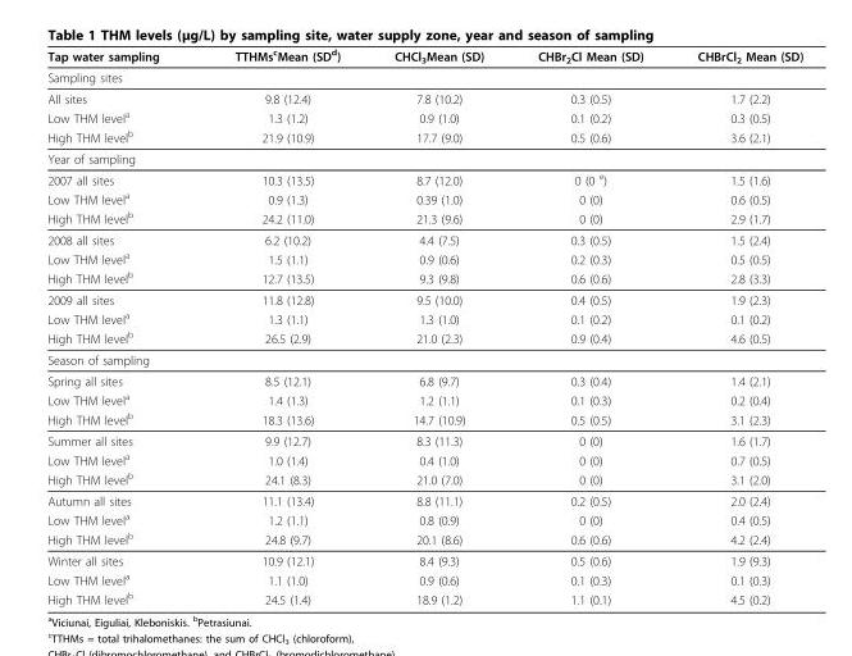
<table><thead><tr><td>Tap water sampling</td><td>TTHMs<sup>c</sup>Mean (SD<sup>d</sup>)</td><td>CHCl<sub>3</sub>Mean (SD)</td><td>CHBr<sub>2</sub>Cl Mean (SD)</td><td>CHBrCl<sub>2</sub> Mean (SD)</td></tr></thead><tbody><tr><td colspan="5">Sampling sites</td></tr><tr><td>All sites</td><td>9.8 (12.4)</td><td>7.8 (10.2)</td><td>0.3 (0.5)</td><td>1.7 (2.2)</td></tr><tr><td>Low THM level<sup>a</sup></td><td>1.3 (1.2)</td><td>0.9 (1.0)</td><td>0.1 (0.2)</td><td>0.3 (0.5)</td></tr><tr><td>High THM level<sup>b</sup></td><td>21.9 (10.9)</td><td>17.7 (9.0)</td><td>0.5 (0.6)</td><td>3.6 (2.1)</td></tr><tr><td colspan="5">Year of sampling</td></tr><tr><td>2007 all sites</td><td>10.3 (13.5)</td><td>8.7 (12.0)</td><td>0 (0 <sup>e</sup>)</td><td>1.5 (1.6)</td></tr><tr><td>Low THM level<sup>a</sup></td><td>0.9 (1.3)</td><td>0.39 (1.0)</td><td>0 (0)</td><td>0.6 (0.5)</td></tr><tr><td>High THM level<sup>b</sup></td><td>24.2 (11.0)</td><td>21.3 (9.6)</td><td>0 (0)</td><td>2.9 (1.7)</td></tr><tr><td>2008 all sites</td><td>6.2 (10.2)</td><td>4.4 (7.5)</td><td>0.3 (0.5)</td><td>1.5 (2.4)</td></tr><tr><td>Low THM level<sup>a</sup></td><td>1.5 (1.1)</td><td>0.9 (0.6)</td><td>0.2 (0.3)</td><td>0.5 (0.5)</td></tr><tr><td>High THM level<sup>b</sup></td><td>12.7 (13.5)</td><td>9.3 (9.8)</td><td>0.6 (0.6)</td><td>2.8 (3.3)</td></tr><tr><td>2009 all sites</td><td>11.8 (12.8)</td><td>9.5 (10.0)</td><td>0.4 (0.5)</td><td>1.9 (2.3)</td></tr><tr><td>Low THM level<sup>a</sup></td><td>1.3 (1.1)</td><td>1.3 (1.0)</td><td>0.1 (0.2)</td><td>0.1 (0.2)</td></tr><tr><td>High THM level<sup>b</sup></td><td>26.5 (2.9)</td><td>21.0 (2.3)</td><td>0.9 (0.4)</td><td>4.6 (0.5)</td></tr><tr><td colspan="5">Season of sampling</td></tr><tr><td>Spring all sites</td><td>8.5 (12.1)</td><td>6.8 (9.7)</td><td>0.3 (0.4)</td><td>1.4 (2.1)</td></tr><tr><td>Low THM level<sup>a</sup></td><td>1.4 (1.3)</td><td>1.2 (1.1)</td><td>0.1 (0.3)</td><td>0.2 (0.4)</td></tr><tr><td>High THM level<sup>b</sup></td><td>18.3 (13.6)</td><td>14.7 (10.9)</td><td>0.5 (0.5)</td><td>3.1 (2.3)</td></tr><tr><td>Summer all sites</td><td>9.9 (12.7)</td><td>8.3 (11.3)</td><td>0 (0)</td><td>1.6 (1.7)</td></tr><tr><td>Low THM level<sup>a</sup></td><td>1.0 (1.4)</td><td>0.4 (1.0)</td><td>0 (0)</td><td>0.7 (0.5)</td></tr><tr><td>High THM level<sup>b</sup></td><td>24.1 (8.3)</td><td>21.0 (7.0)</td><td>0 (0)</td><td>3.1 (2.0)</td></tr><tr><td>Autumn all sites</td><td>11.1 (13.4)</td><td>8.8 (11.1)</td><td>0.2 (0.5)</td><td>2.0 (2.4)</td></tr><tr><td>Low THM level<sup>a</sup></td><td>1.2 (1.1)</td><td>0.8 (0.9)</td><td>0 (0)</td><td>0.4 (0.5)</td></tr><tr><td>High THM level<sup>b</sup></td><td>24.8 (9.7)</td><td>20.1 (8.6)</td><td>0.6 (0.6)</td><td>4.2 (2.4)</td></tr><tr><td>Winter all sites</td><td>10.9 (12.1)</td><td>8.4 (9.3)</td><td>0.5 (0.6)</td><td>1.9 (9.3)</td></tr><tr><td>Low THM level<sup>a</sup></td><td>1.1 (1.0)</td><td>0.9 (0.6)</td><td>0.1 (0.3)</td><td>0.1 (0.3)</td></tr><tr><td>High THM level<sup>b</sup></td><td>24.5 (1.4)</td><td>18.9 (1.2)</td><td>1.1 (0.1)</td><td>4.5 (0.2)</td></tr></tbody></table>